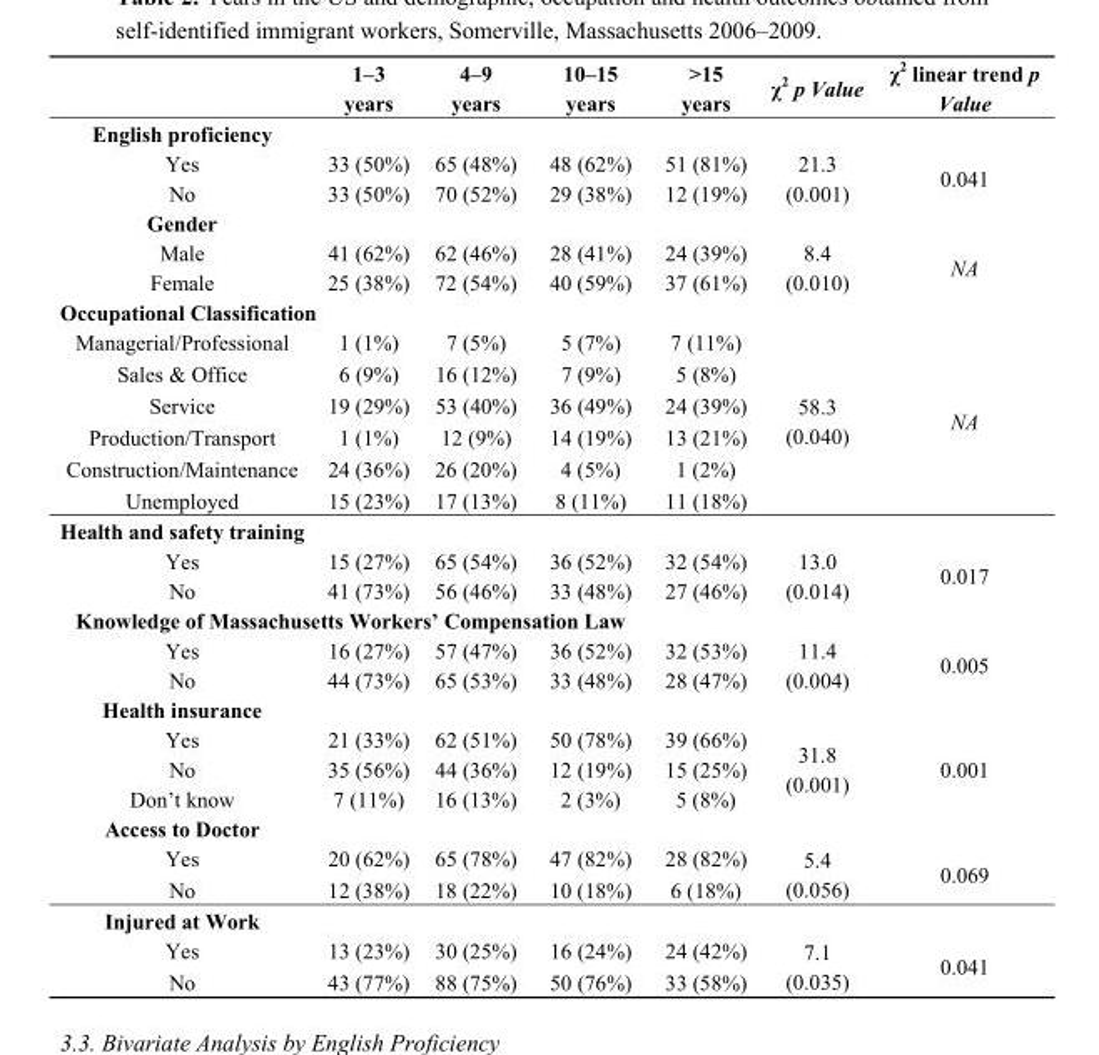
<table><thead><tr><td></td><td>1–3 years</td><td>4–9 years</td><td>10–15 years</td><td>&gt;15 years</td><td>χ<sup>2</sup> p Value</td><td>χ<sup>2</sup> linear trend p Value</td></tr></thead><tbody><tr><td colspan="7">English proficiency</td></tr><tr><td>Yes</td><td>33 (50%)</td><td>65 (48%)</td><td>48 (62%)</td><td>51 (81%)</td><td rowspan="2">21.3 (0.001)</td><td rowspan="2">0.041</td></tr><tr><td>No</td><td>33 (50%)</td><td>70 (52%)</td><td>29 (38%)</td><td>12 (19%)</td></tr><tr><td colspan="7">Gender</td></tr><tr><td>Male</td><td>41 (62%)</td><td>62 (46%)</td><td>28 (41%)</td><td>24 (39%)</td><td rowspan="2">8.4 (0.010)</td><td rowspan="2">NA</td></tr><tr><td>Female</td><td>25 (38%)</td><td>72 (54%)</td><td>40 (59%)</td><td>37 (61%)</td></tr><tr><td colspan="7">Occupational Classification</td></tr><tr><td>Managerial/Professional</td><td>1 (1%)</td><td>7 (5%)</td><td>5 (7%)</td><td>7 (11%)</td><td rowspan="6">58.3 (0.040)</td><td rowspan="6">NA</td></tr><tr><td>Sales &amp; Office</td><td>6 (9%)</td><td>16 (12%)</td><td>7 (9%)</td><td>5 (8%)</td></tr><tr><td>Service</td><td>19 (29%)</td><td>53 (40%)</td><td>36 (49%)</td><td>24 (39%)</td></tr><tr><td>Production/Transport</td><td>1 (1%)</td><td>12 (9%)</td><td>14 (19%)</td><td>13 (21%)</td></tr><tr><td>Construction/Maintenance</td><td>24 (36%)</td><td>26 (20%)</td><td>4 (5%)</td><td>1 (2%)</td></tr><tr><td>Unemployed</td><td>15 (23%)</td><td>17 (13%)</td><td>8 (11%)</td><td>11 (18%)</td></tr><tr><td colspan="7">Health and safety training</td></tr><tr><td>Yes</td><td>15 (27%)</td><td>65 (54%)</td><td>36 (52%)</td><td>32 (54%)</td><td rowspan="2">13.0 (0.014)</td><td rowspan="2">0.017</td></tr><tr><td>No</td><td>41 (73%)</td><td>56 (46%)</td><td>33 (48%)</td><td>27 (46%)</td></tr><tr><td colspan="7">Knowledge of Massachusetts Workers’ Compensation Law</td></tr><tr><td>Yes</td><td>16 (27%)</td><td>57 (47%)</td><td>36 (52%)</td><td>32 (53%)</td><td rowspan="2">11.4 (0.004)</td><td rowspan="2">0.005</td></tr><tr><td>No</td><td>44 (73%)</td><td>65 (53%)</td><td>33 (48%)</td><td>28 (47%)</td></tr><tr><td colspan="7">Health insurance</td></tr><tr><td>Yes</td><td>21 (33%)</td><td>62 (51%)</td><td>50 (78%)</td><td>39 (66%)</td><td rowspan="3">31.8 (0.001)</td><td rowspan="3">0.001</td></tr><tr><td>No</td><td>35 (56%)</td><td>44 (36%)</td><td>12 (19%)</td><td>15 (25%)</td></tr><tr><td>Don’t know</td><td>7 (11%)</td><td>16 (13%)</td><td>2 (3%)</td><td>5 (8%)</td></tr><tr><td colspan="7">Access to Doctor</td></tr><tr><td>Yes</td><td>20 (62%)</td><td>65 (78%)</td><td>47 (82%)</td><td>28 (82%)</td><td rowspan="2">5.4 (0.056)</td><td rowspan="2">0.069</td></tr><tr><td>No</td><td>12 (38%)</td><td>18 (22%)</td><td>10 (18%)</td><td>6 (18%)</td></tr><tr><td colspan="7">Injured at Work</td></tr><tr><td>Yes</td><td>13 (23%)</td><td>30 (25%)</td><td>16 (24%)</td><td>24 (42%)</td><td rowspan="2">7.1 (0.035)</td><td rowspan="2">0.041</td></tr><tr><td>No</td><td>43 (77%)</td><td>88 (75%)</td><td>50 (76%)</td><td>33 (58%)</td></tr></tbody></table>